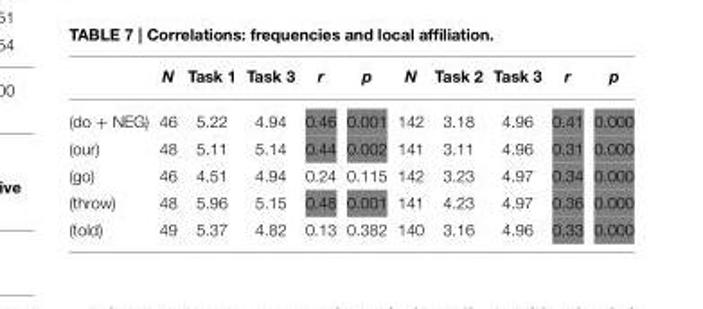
<table><thead><tr><td></td><td>N</td><td>Task 1</td><td>Task 3</td><td>r</td><td>p</td><td>N</td><td>Task 2</td><td>Task 3</td><td>r</td><td>p</td></tr></thead><tbody><tr><td>(do + NEG)</td><td>46</td><td>5.22</td><td>4.94</td><td>0.46</td><td>0.001</td><td>142</td><td>3.18</td><td>4.96</td><td>0.41</td><td>0.000</td></tr><tr><td>(our)</td><td>48</td><td>5.11</td><td>5.14</td><td>0.44</td><td>0.002</td><td>141</td><td>3.11</td><td>4.96</td><td>0.31</td><td>0.000</td></tr><tr><td>(go)</td><td>46</td><td>4.51</td><td>4.94</td><td>0.24</td><td>0.115</td><td>142</td><td>3.23</td><td>4.97</td><td>0.34</td><td>0.000</td></tr><tr><td>(throw)</td><td>48</td><td>5.96</td><td>5.15</td><td>0.48</td><td>0.001</td><td>141</td><td>4.23</td><td>4.97</td><td>0.36</td><td>0.000</td></tr><tr><td>(told)</td><td>49</td><td>5.37</td><td>4.82</td><td>0.13</td><td>0.382</td><td>140</td><td>3.16</td><td>4.96</td><td>0.33</td><td>0.000</td></tr></tbody></table>